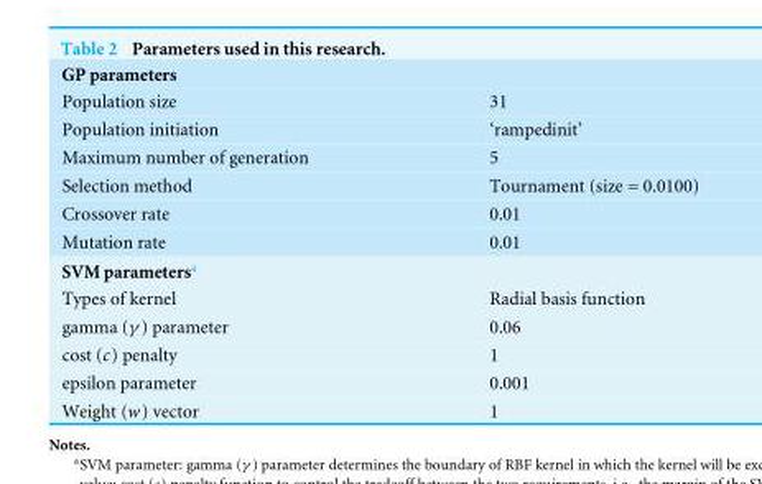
<table><tbody><tr><td colspan="2">GP parameters</td></tr><tr><td>Population size</td><td>31</td></tr><tr><td>Population initiation</td><td>‘rampedinit’</td></tr><tr><td>Maximum number of generation</td><td>5</td></tr><tr><td>Selection method</td><td>Tournament (size = 0.0100)</td></tr><tr><td>Crossover rate</td><td>0.01</td></tr><tr><td>Mutation rate</td><td>0.01</td></tr><tr><td colspan="2">SVM parameters<sup>a</sup></td></tr><tr><td>Types of kernel</td><td>Radial basis function</td></tr><tr><td>gamma (γ ) parameter</td><td>0.06</td></tr><tr><td>cost (c) penalty</td><td>1</td></tr><tr><td>epsilon parameter</td><td>0.001</td></tr><tr><td>Weight (w) vector</td><td>1</td></tr></tbody></table>